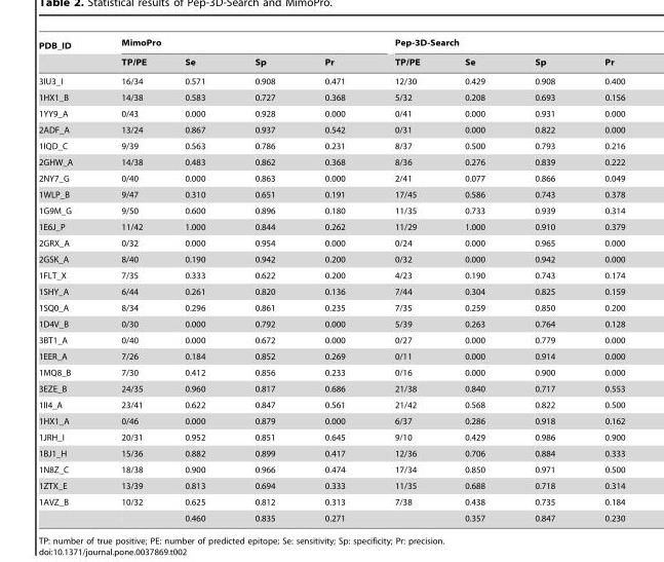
<table><thead><tr><td rowspan="2">PDB_ID</td><td colspan="4">MimoPro</td><td colspan="4">Pep-3D-Search</td></tr><tr><td>TP/PE</td><td>Se</td><td>Sp</td><td>Pr</td><td>TP/PE</td><td>Se</td><td>Sp</td><td>Pr</td></tr></thead><tbody><tr><td>3IU3_I</td><td>16/34</td><td>0.571</td><td>0.908</td><td>0.471</td><td>12/30</td><td>0.429</td><td>0.908</td><td>0.400</td></tr><tr><td>1HX1_B</td><td>14/38</td><td>0.583</td><td>0.727</td><td>0.368</td><td>5/32</td><td>0.208</td><td>0.693</td><td>0.156</td></tr><tr><td>1YY9_A</td><td>0/43</td><td>0.000</td><td>0.928</td><td>0.000</td><td>0/41</td><td>0.000</td><td>0.931</td><td>0.000</td></tr><tr><td>2ADF_A</td><td>13/24</td><td>0.867</td><td>0.937</td><td>0.542</td><td>0/31</td><td>0.000</td><td>0.822</td><td>0.000</td></tr><tr><td>1IQD_C</td><td>9/39</td><td>0.563</td><td>0.786</td><td>0.231</td><td>8/37</td><td>0.500</td><td>0.793</td><td>0.216</td></tr><tr><td>2GHW_A</td><td>14/38</td><td>0.483</td><td>0.862</td><td>0.368</td><td>8/36</td><td>0.276</td><td>0.839</td><td>0.222</td></tr><tr><td>2NY7_G</td><td>0/40</td><td>0.000</td><td>0.863</td><td>0.000</td><td>2/41</td><td>0.077</td><td>0.866</td><td>0.049</td></tr><tr><td>1WLP_B</td><td>9/47</td><td>0.310</td><td>0.651</td><td>0.191</td><td>17/45</td><td>0.586</td><td>0.743</td><td>0.378</td></tr><tr><td>1G9M_G</td><td>9/50</td><td>0.600</td><td>0.896</td><td>0.180</td><td>11/35</td><td>0.733</td><td>0.939</td><td>0.314</td></tr><tr><td>1E6J_P</td><td>11/42</td><td>1.000</td><td>0.844</td><td>0.262</td><td>11/29</td><td>1.000</td><td>0.910</td><td>0.379</td></tr><tr><td>2GRX_A</td><td>0/32</td><td>0.000</td><td>0.954</td><td>0.000</td><td>0/24</td><td>0.000</td><td>0.965</td><td>0.000</td></tr><tr><td>2GSK_A</td><td>8/40</td><td>0.190</td><td>0.942</td><td>0.200</td><td>0/32</td><td>0.000</td><td>0.942</td><td>0.000</td></tr><tr><td>1FLT_X</td><td>7/35</td><td>0.333</td><td>0.622</td><td>0.200</td><td>4/23</td><td>0.190</td><td>0.743</td><td>0.174</td></tr><tr><td>1SHY_A</td><td>6/44</td><td>0.261</td><td>0.820</td><td>0.136</td><td>7/44</td><td>0.304</td><td>0.825</td><td>0.159</td></tr><tr><td>1SQ0_A</td><td>8/34</td><td>0.296</td><td>0.861</td><td>0.235</td><td>7/35</td><td>0.259</td><td>0.850</td><td>0.200</td></tr><tr><td>1D4V_B</td><td>0/30</td><td>0.000</td><td>0.792</td><td>0.000</td><td>5/39</td><td>0.263</td><td>0.764</td><td>0.128</td></tr><tr><td>3BT1_A</td><td>0/40</td><td>0.000</td><td>0.672</td><td>0.000</td><td>0/27</td><td>0.000</td><td>0.779</td><td>0.000</td></tr><tr><td>1EER_A</td><td>7/26</td><td>0.184</td><td>0.852</td><td>0.269</td><td>0/11</td><td>0.000</td><td>0.914</td><td>0.000</td></tr><tr><td>1MQ8_B</td><td>7/30</td><td>0.412</td><td>0.856</td><td>0.233</td><td>0/16</td><td>0.000</td><td>0.900</td><td>0.000</td></tr><tr><td>3EZE_B</td><td>24/35</td><td>0.960</td><td>0.817</td><td>0.686</td><td>21/38</td><td>0.840</td><td>0.717</td><td>0.553</td></tr><tr><td>1II4_A</td><td>23/41</td><td>0.622</td><td>0.847</td><td>0.561</td><td>21/42</td><td>0.568</td><td>0.822</td><td>0.500</td></tr><tr><td>1HX1_A</td><td>0/46</td><td>0.000</td><td>0.879</td><td>0.000</td><td>6/37</td><td>0.286</td><td>0.918</td><td>0.162</td></tr><tr><td>1JRH_I</td><td>20/31</td><td>0.952</td><td>0.851</td><td>0.645</td><td>9/10</td><td>0.429</td><td>0.986</td><td>0.900</td></tr><tr><td>1BJ1_H</td><td>15/36</td><td>0.882</td><td>0.899</td><td>0.417</td><td>12/36</td><td>0.706</td><td>0.884</td><td>0.333</td></tr><tr><td>1N8Z_C</td><td>18/38</td><td>0.900</td><td>0.966</td><td>0.474</td><td>17/34</td><td>0.850</td><td>0.971</td><td>0.500</td></tr><tr><td>1ZTX_E</td><td>13/39</td><td>0.813</td><td>0.694</td><td>0.333</td><td>11/35</td><td>0.688</td><td>0.718</td><td>0.314</td></tr><tr><td rowspan="2">1AVZ_B</td><td>10/32</td><td>0.625</td><td>0.812</td><td>0.313</td><td>7/38</td><td>0.438</td><td>0.735</td><td>0.184</td></tr><tr><td></td><td>0.460</td><td>0.835</td><td>0.271</td><td></td><td>0.357</td><td>0.847</td><td>0.230</td></tr></tbody></table>